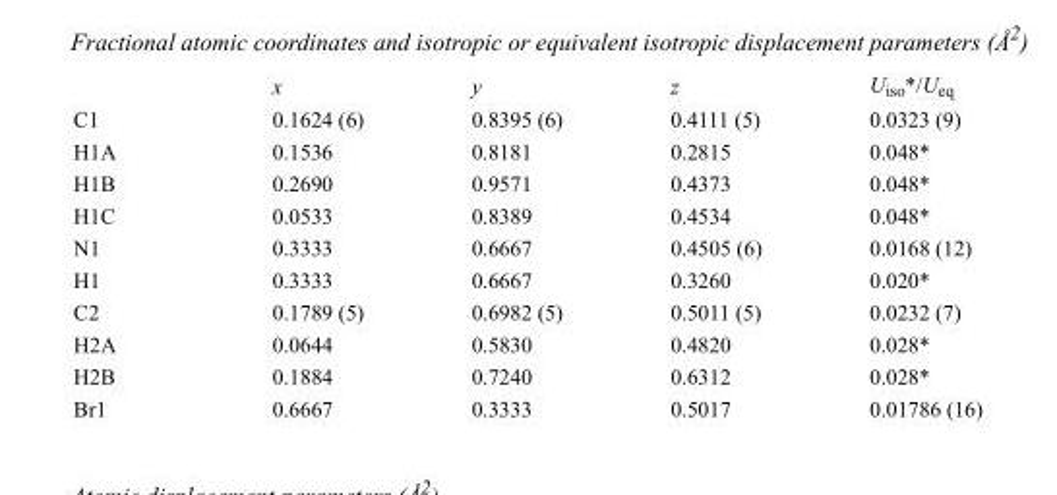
<table><thead><tr><td></td><td>x</td><td>y</td><td>z</td><td>U<sub>iso</sub>*/U<sub>eq</sub></td></tr></thead><tbody><tr><td>C1</td><td>0.1624 (6)</td><td>0.8395 (6)</td><td>0.4111 (5)</td><td>0.0323 (9)</td></tr><tr><td>H1A</td><td>0.1536</td><td>0.8181</td><td>0.2815</td><td>0.048*</td></tr><tr><td>H1B</td><td>0.2690</td><td>0.9571</td><td>0.4373</td><td>0.048*</td></tr><tr><td>H1C</td><td>0.0533</td><td>0.8389</td><td>0.4534</td><td>0.048*</td></tr><tr><td>N1</td><td>0.3333</td><td>0.6667</td><td>0.4505 (6)</td><td>0.0168 (12)</td></tr><tr><td>H1</td><td>0.3333</td><td>0.6667</td><td>0.3260</td><td>0.020*</td></tr><tr><td>C2</td><td>0.1789 (5)</td><td>0.6982 (5)</td><td>0.5011 (5)</td><td>0.0232 (7)</td></tr><tr><td>H2A</td><td>0.0644</td><td>0.5830</td><td>0.4820</td><td>0.028*</td></tr><tr><td>H2B</td><td>0.1884</td><td>0.7240</td><td>0.6312</td><td>0.028*</td></tr><tr><td>Br1</td><td>0.6667</td><td>0.3333</td><td>0.5017</td><td>0.01786 (16)</td></tr></tbody></table>